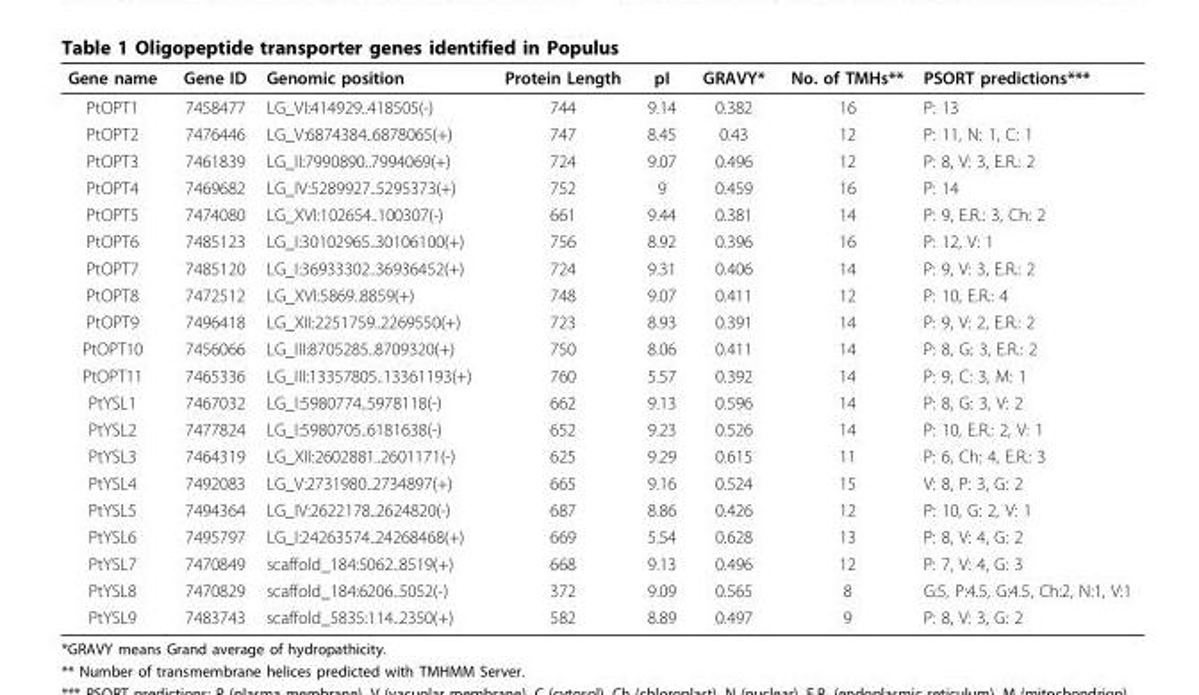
<table><thead><tr><td>Gene name</td><td>Gene ID</td><td>Genomic position</td><td>Protein Length</td><td>pI</td><td>GRAVY*</td><td>No. of TMHs**</td><td>PSORT predictions***</td></tr></thead><tbody><tr><td>PtOPT1</td><td>7458477</td><td>LG_VI:414929..418505(-)</td><td>744</td><td>9.14</td><td>0.382</td><td>16</td><td>P: 13</td></tr><tr><td>PtOPT2</td><td>7476446</td><td>LG_V:6874384..6878065(+)</td><td>747</td><td>8.45</td><td>0.43</td><td>12</td><td>P: 11, N: 1, C: 1</td></tr><tr><td>PtOPT3</td><td>7461839</td><td>LG_II:7990890..7994069(+)</td><td>724</td><td>9.07</td><td>0.496</td><td>12</td><td>P: 8, V: 3, E.R.: 2</td></tr><tr><td>PtOPT4</td><td>7469682</td><td>LG_IV:5289927..5295373(+)</td><td>752</td><td>9</td><td>0.459</td><td>16</td><td>P: 14</td></tr><tr><td>PtOPT5</td><td>7474080</td><td>LG_XVI:102654..100307(-)</td><td>661</td><td>9.44</td><td>0.381</td><td>14</td><td>P: 9, E.R.: 3, Ch: 2</td></tr><tr><td>PtOPT6</td><td>7485123</td><td>LG_I:30102965..30106100(+)</td><td>756</td><td>8.92</td><td>0.396</td><td>16</td><td>P: 12, V: 1</td></tr><tr><td>PtOPT7</td><td>7485120</td><td>LG_I:36933302..36936452(+)</td><td>724</td><td>9.31</td><td>0.406</td><td>14</td><td>P: 9, V: 3, E.R.: 2</td></tr><tr><td>PtOPT8</td><td>7472512</td><td>LG_XVI:5869..8859(+)</td><td>748</td><td>9.07</td><td>0.411</td><td>12</td><td>P: 10, E.R.: 4</td></tr><tr><td>PtOPT9</td><td>7496418</td><td>LG_XII:2251759..2269550(+)</td><td>723</td><td>8.93</td><td>0.391</td><td>14</td><td>P: 9, V: 2, E.R.: 2</td></tr><tr><td>PtOPT10</td><td>7456066</td><td>LG_III:8705285..8709320(+)</td><td>750</td><td>8.06</td><td>0.411</td><td>14</td><td>P: 8, G: 3, E.R.: 2</td></tr><tr><td>PtOPT11</td><td>7465336</td><td>LG_III:13357805..13361193(+)</td><td>760</td><td>5.57</td><td>0.392</td><td>14</td><td>P: 9, C: 3, M: 1</td></tr><tr><td>PtYSL1</td><td>7467032</td><td>LG_I:5980774..5978118(-)</td><td>662</td><td>9.13</td><td>0.596</td><td>14</td><td>P: 8, G: 3, V: 2</td></tr><tr><td>PtYSL2</td><td>7477824</td><td>LG_I:5980705..6181638(-)</td><td>652</td><td>9.23</td><td>0.526</td><td>14</td><td>P: 10, E.R.: 2, V: 1</td></tr><tr><td>PtYSL3</td><td>7464319</td><td>LG_XII:2602881..2601171(-)</td><td>625</td><td>9.29</td><td>0.615</td><td>11</td><td>P: 6, Ch: 4, E.R.: 3</td></tr><tr><td>PtYSL4</td><td>7492083</td><td>LG_V:2731980..2734897(+)</td><td>665</td><td>9.16</td><td>0.524</td><td>15</td><td>V: 8, P: 3, G: 2</td></tr><tr><td>PtYSL5</td><td>7494364</td><td>LG_IV:2622178..2624820(-)</td><td>687</td><td>8.86</td><td>0.426</td><td>12</td><td>P: 10, G: 2, V: 1</td></tr><tr><td>PtYSL6</td><td>7495797</td><td>LG_I:24263574..24268468(+)</td><td>669</td><td>5.54</td><td>0.628</td><td>13</td><td>P: 8, V: 4, G: 2</td></tr><tr><td>PtYSL7</td><td>7470849</td><td>scaffold_184:5062..8519(+)</td><td>668</td><td>9.13</td><td>0.496</td><td>12</td><td>P: 7, V: 4, G: 3</td></tr><tr><td>PtYSL8</td><td>7470829</td><td>scaffold_184:6206..5052(-)</td><td>372</td><td>9.09</td><td>0.565</td><td>8</td><td>G:5, P:4.5, G:4.5, Ch:2, N:1, V:1</td></tr><tr><td>PtYSL9</td><td>7483743</td><td>scaffold_5835:114..2350(+)</td><td>582</td><td>8.89</td><td>0.497</td><td>9</td><td>P: 8, V: 3, G: 2</td></tr></tbody></table>